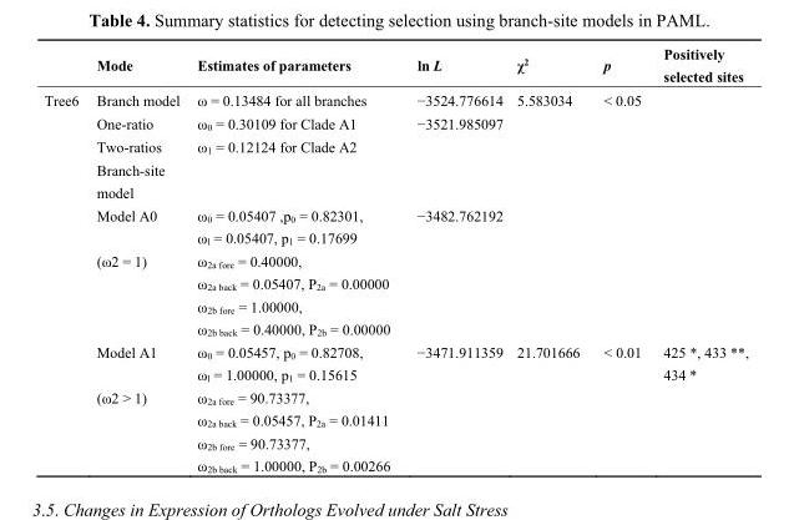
<table><thead><tr><td></td><td>Mode</td><td>Estimates of parameters</td><td>ln L</td><td>χ<sup>2</sup></td><td>p</td><td>Positively selected sites</td></tr></thead><tbody><tr><td rowspan="10">Tree6</td><td>Branch model</td><td>ω = 0.13484 for all branches</td><td>−3524.776614</td><td>5.583034</td><td>&lt; 0.05</td><td></td></tr><tr><td>One-ratio</td><td>ω<sub>0</sub> = 0.30109 for Clade A1</td><td>−3521.985097</td><td></td><td></td><td></td></tr><tr><td>Two-ratios</td><td>ω<sub>1</sub> = 0.12124 for Clade A2</td><td></td><td></td><td></td><td></td></tr><tr><td>Branch-site model</td><td></td><td></td><td></td><td></td><td></td></tr><tr><td>Model A0</td><td>ω<sub>0</sub> = 0.05407 ,p<sub>0</sub> = 0.82301, ω<sub>l</sub> = 0.05407, p<sub>1</sub> = 0.17699</td><td>−3482.762192</td><td></td><td></td><td></td></tr><tr><td>(ω2 = 1)</td><td>ω<sub>2a fore</sub> = 0.40000, ω<sub>2a back</sub> = 0.05407, P<sub>2a</sub> = 0.00000</td><td></td><td></td><td></td><td></td></tr><tr><td></td><td>ω<sub>2b fore</sub> = 1.00000, ω<sub>2b back</sub> = 0.40000, P<sub>2b</sub> = 0.00000</td><td></td><td></td><td></td><td></td></tr><tr><td>Model A1</td><td>ω<sub>0</sub> = 0.05457, p<sub>0</sub> = 0.82708, ω<sub>l</sub> = 1.00000, p<sub>1</sub> = 0.15615</td><td>−3471.911359</td><td>21.701666</td><td>&lt; 0.01</td><td>425 *, 433 **, 434 *</td></tr><tr><td>(ω2 &gt; 1)</td><td>ω<sub>2a fore</sub> = 90.73377, ω<sub>2a back</sub> = 0.05457, P<sub>2a</sub> = 0.01411</td><td></td><td></td><td></td><td></td></tr><tr><td></td><td>ω<sub>2b fore</sub> = 90.73377, ω<sub>2b back</sub> = 1.00000, P<sub>2b</sub> = 0.00266</td><td></td><td></td><td></td><td></td></tr></tbody></table>